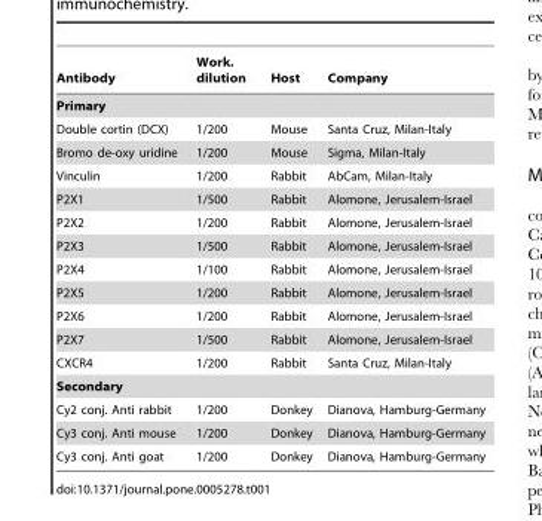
<table><thead><tr><td>Antibody</td><td>Work. dilution</td><td>Host</td><td>Company</td></tr></thead><tbody><tr><td colspan="4">Primary</td></tr><tr><td>Double cortin (DCX)</td><td>1/200</td><td>Mouse</td><td>Santa Cruz, Milan-Italy</td></tr><tr><td>Bromo de-oxy uridine</td><td>1/200</td><td>Mouse</td><td>Sigma, Milan-Italy</td></tr><tr><td>Vinculin</td><td>1/200</td><td>Rabbit</td><td>AbCam, Milan-Italy</td></tr><tr><td>P2X1</td><td>1/500</td><td>Rabbit</td><td>Alomone, Jerusalem-Israel</td></tr><tr><td>P2X2</td><td>1/200</td><td>Rabbit</td><td>Alomone, Jerusalem-Israel</td></tr><tr><td>P2X3</td><td>1/500</td><td>Rabbit</td><td>Alomone, Jerusalem-Israel</td></tr><tr><td>P2X4</td><td>1/100</td><td>Rabbit</td><td>Alomone, Jerusalem-Israel</td></tr><tr><td>P2X5</td><td>1/200</td><td>Rabbit</td><td>Alomone, Jerusalem-Israel</td></tr><tr><td>P2X6</td><td>1/200</td><td>Rabbit</td><td>Alomone, Jerusalem-Israel</td></tr><tr><td>P2X7</td><td>1/500</td><td>Rabbit</td><td>Alomone, Jerusalem-Israel</td></tr><tr><td>CXCR4</td><td>1/200</td><td>Rabbit</td><td>Santa Cruz, Milan-Italy</td></tr><tr><td colspan="4">Secondary</td></tr><tr><td>Cy2 conj. Anti rabbit</td><td>1/200</td><td>Donkey</td><td>Dianova, Hamburg-Germany</td></tr><tr><td>Cy3 conj. Anti mouse</td><td>1/200</td><td>Donkey</td><td>Dianova, Hamburg-Germany</td></tr><tr><td>Cy3 conj. Anti goat</td><td>1/200</td><td>Donkey</td><td>Dianova, Hamburg-Germany</td></tr></tbody></table>